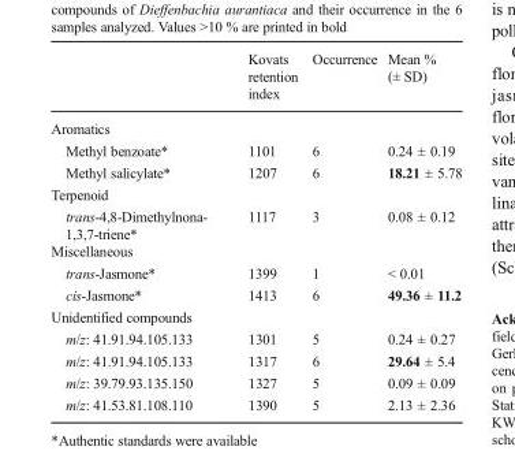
<table><thead><tr><td></td><td>Kovats retention index</td><td>Occurrence</td><td>Mean % (± SD)</td></tr></thead><tbody><tr><td colspan="4">Aromatics</td></tr><tr><td>Methyl benzoate*</td><td>1101</td><td>6</td><td>0.24 ± 0.19</td></tr><tr><td>Methyl salicylate*</td><td>1207</td><td>6</td><td>18.21 ± 5.78</td></tr><tr><td colspan="4">Terpenoid</td></tr><tr><td>trans-4,8-Dimethylnona- 1,3,7-triene*</td><td>1117</td><td>3</td><td>0.08 ± 0.12</td></tr><tr><td colspan="4">Miscellaneous</td></tr><tr><td>trans-Jasmone*</td><td>1399</td><td>1</td><td>&lt; 0.01</td></tr><tr><td>cis-Jasmone*</td><td>1413</td><td>6</td><td>49.36 ± 11.2</td></tr><tr><td colspan="4">Unidentified compounds</td></tr><tr><td>m/z: 41.91.94.105.133</td><td>1301</td><td>5</td><td>0.24 ± 0.27</td></tr><tr><td>m/z: 41.91.94.105.133</td><td>1317</td><td>6</td><td>29.64 ± 5.4</td></tr><tr><td>m/z: 39.79.93.135.150</td><td>1327</td><td>5</td><td>0.09 ± 0.09</td></tr><tr><td>m/z: 41.53.81.108.110</td><td>1390</td><td>5</td><td>2.13 ± 2.36</td></tr></tbody></table>